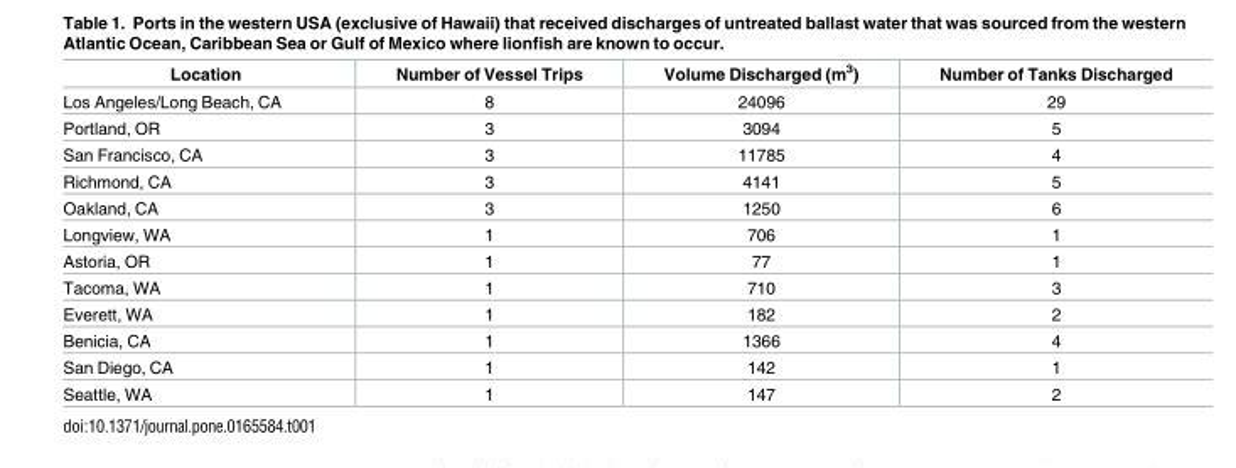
<table><thead><tr><td>Location</td><td>Number of Vessel Trips</td><td>Volume Discharged (m<sup>3</sup>)</td><td>Number of Tanks Discharged</td></tr></thead><tbody><tr><td>Los Angeles/Long Beach, CA</td><td>8</td><td>24096</td><td>29</td></tr><tr><td>Portland, OR</td><td>3</td><td>3094</td><td>5</td></tr><tr><td>San Francisco, CA</td><td>3</td><td>11785</td><td>4</td></tr><tr><td>Richmond, CA</td><td>3</td><td>4141</td><td>5</td></tr><tr><td>Oakland, CA</td><td>3</td><td>1250</td><td>6</td></tr><tr><td>Longview, WA</td><td>1</td><td>706</td><td>1</td></tr><tr><td>Astoria, OR</td><td>1</td><td>77</td><td>1</td></tr><tr><td>Tacoma, WA</td><td>1</td><td>710</td><td>3</td></tr><tr><td>Everett, WA</td><td>1</td><td>182</td><td>2</td></tr><tr><td>Benicia, CA</td><td>1</td><td>1366</td><td>4</td></tr><tr><td>San Diego, CA</td><td>1</td><td>142</td><td>1</td></tr><tr><td>Seattle, WA</td><td>1</td><td>147</td><td>2</td></tr></tbody></table>